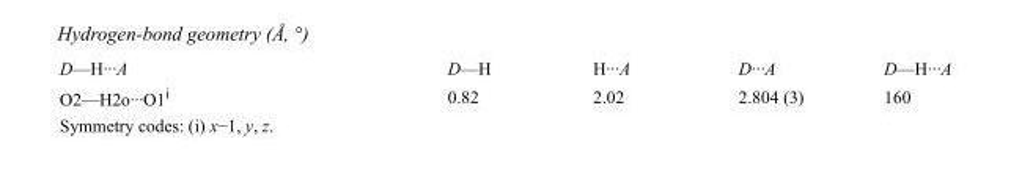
<table><tbody><tr><td>D—H···A</td><td>D—H</td><td>H···A</td><td>D···A</td><td>D—H···A</td></tr><tr><td>O2—H2o···O1<sup>i</sup></td><td>0.82</td><td>2.02</td><td>2.804 (3)</td><td>160</td></tr></tbody></table>